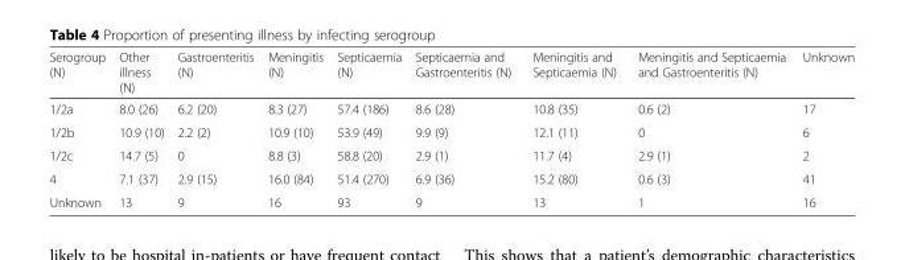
<table><thead><tr><td>Serogroup (N)</td><td>Other illness (N)</td><td>Gastroenteritis (N)</td><td>Meningitis (N)</td><td>Septicaemia (N)</td><td>Septicaemia and Gastroenteritis (N)</td><td>Meningitis and Septicaemia (N)</td><td>Meningitis and Septicaemia and Gastroenteritis (N)</td><td>Unknown</td></tr></thead><tbody><tr><td>1/2a</td><td>8.0 (26)</td><td>6.2 (20)</td><td>8.3 (27)</td><td>57.4 (186)</td><td>8.6 (28)</td><td>10.8 (35)</td><td>0.6 (2)</td><td>17</td></tr><tr><td>1/2b</td><td>10.9 (10)</td><td>2.2 (2)</td><td>10.9 (10)</td><td>53.9 (49)</td><td>9.9 (9)</td><td>12.1 (11)</td><td>0</td><td>6</td></tr><tr><td>1/2c</td><td>14.7 (5)</td><td>0</td><td>8.8 (3)</td><td>58.8 (20)</td><td>2.9 (1)</td><td>11.7 (4)</td><td>2.9 (1)</td><td>2</td></tr><tr><td>4</td><td>7.1 (37)</td><td>2.9 (15)</td><td>16.0 (84)</td><td>51.4 (270)</td><td>6.9 (36)</td><td>15.2 (80)</td><td>0.6 (3)</td><td>41</td></tr><tr><td>Unknown</td><td>13</td><td>9</td><td>16</td><td>93</td><td>9</td><td>13</td><td>1</td><td>16</td></tr></tbody></table>